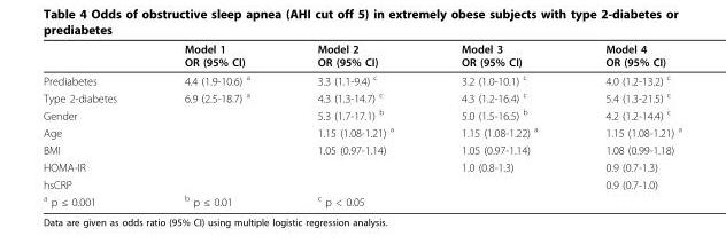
<table><thead><tr><td></td><td>Model 1 OR (95% CI)</td><td>Model 2 OR (95% CI)</td><td>Model 3 OR (95% CI)</td><td>Model 4 OR (95% CI)</td></tr></thead><tbody><tr><td>Prediabetes</td><td>4.4 (1.9-10.6) <sup>a</sup></td><td>3.3 (1.1-9.4) <sup>c</sup></td><td>3.2 (1.0-10.1) <sup>c</sup></td><td>4.0 (1.2-13.2) <sup>c</sup></td></tr><tr><td>Type 2-diabetes</td><td>6.9 (2.5-18.7) <sup>a</sup></td><td>4.3 (1.3-14.7) <sup>c</sup></td><td>4.3 (1.2-16.4) <sup>c</sup></td><td>5.4 (1.3-21.5) <sup>c</sup></td></tr><tr><td>Gender</td><td></td><td>5.3 (1.7-17.1) <sup>b</sup></td><td>5.0 (1.5-16.5) <sup>b</sup></td><td>4.2 (1.2-14.4) <sup>c</sup></td></tr><tr><td>Age</td><td></td><td>1.15 (1.08-1.21) <sup>a</sup></td><td>1.15 (1.08-1.22) <sup>a</sup></td><td>1.15 (1.08-1.21) <sup>a</sup></td></tr><tr><td>BMI</td><td></td><td>1.05 (0.97-1.14)</td><td>1.05 (0.97-1.14)</td><td>1.08 (0.99-1.18)</td></tr><tr><td>HOMA-IR</td><td></td><td></td><td>1.0 (0.8-1.3)</td><td>0.9 (0.7-1.3)</td></tr><tr><td>hsCRP</td><td></td><td></td><td></td><td>0.9 (0.7-1.0)</td></tr><tr><td><sup>a</sup> p ≤ 0.001</td><td><sup>b</sup> p ≤ 0.01</td><td><sup>c</sup> p &lt; 0.05</td><td></td><td></td></tr></tbody></table>